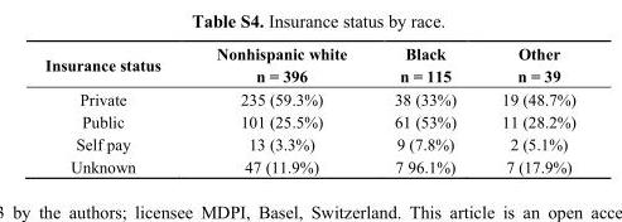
<table><thead><tr><td>Insurance status</td><td>Nonhispanic white n = 396</td><td>Black n = 115</td><td>Other n = 39</td></tr></thead><tbody><tr><td>Private</td><td>235 (59.3%)</td><td>38 (33%)</td><td>19 (48.7%)</td></tr><tr><td>Public</td><td>101 (25.5%)</td><td>61 (53%)</td><td>11 (28.2%)</td></tr><tr><td>Self pay</td><td>13 (3.3%)</td><td>9 (7.8%)</td><td>2 (5.1%)</td></tr><tr><td>Unknown</td><td>47 (11.9%)</td><td>7 96.1%)</td><td>7 (17.9%)</td></tr></tbody></table>